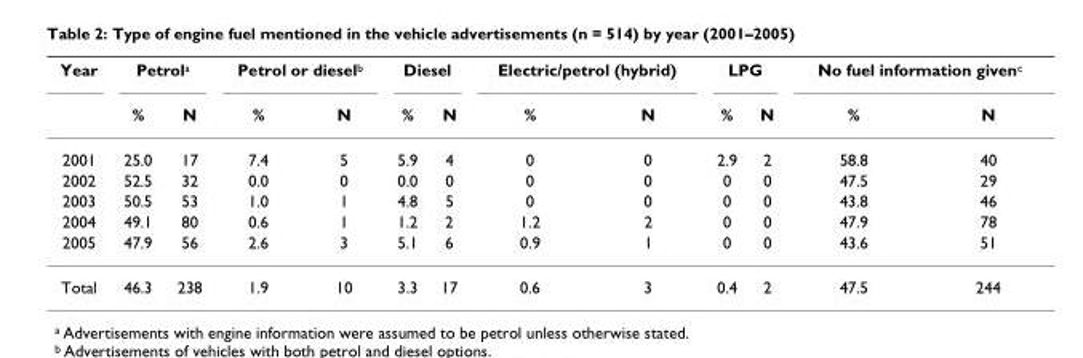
<table><thead><tr><td rowspan="2">Year</td><td colspan="2">Petrol<sup>a</sup></td><td colspan="2">Petrol or diesel<sup>b</sup></td><td colspan="2">Diesel</td><td colspan="2">Electric/petrol (hybrid)</td><td colspan="2">LPG</td><td colspan="2">No fuel information given<sup>c</sup></td></tr><tr><td>%</td><td>N</td><td>%</td><td>N</td><td>%</td><td>N</td><td>%</td><td>N</td><td>%</td><td>N</td><td>%</td><td>N</td></tr></thead><tbody><tr><td>2001</td><td>25.0</td><td>17</td><td>7.4</td><td>5</td><td>5.9</td><td>4</td><td>0</td><td>0</td><td>2.9</td><td>2</td><td>58.8</td><td>40</td></tr><tr><td>2002</td><td>52.5</td><td>32</td><td>0.0</td><td>0</td><td>0.0</td><td>0</td><td>0</td><td>0</td><td>0</td><td>0</td><td>47.5</td><td>29</td></tr><tr><td>2003</td><td>50.5</td><td>53</td><td>1.0</td><td>1</td><td>4.8</td><td>5</td><td>0</td><td>0</td><td>0</td><td>0</td><td>43.8</td><td>46</td></tr><tr><td>2004</td><td>49.1</td><td>80</td><td>0.6</td><td>1</td><td>1.2</td><td>2</td><td>1.2</td><td>2</td><td>0</td><td>0</td><td>47.9</td><td>78</td></tr><tr><td>2005</td><td>47.9</td><td>56</td><td>2.6</td><td>3</td><td>5.1</td><td>6</td><td>0.9</td><td>1</td><td>0</td><td>0</td><td>43.6</td><td>51</td></tr><tr><td>Total</td><td>46.3</td><td>238</td><td>1.9</td><td>10</td><td>3.3</td><td>17</td><td>0.6</td><td>3</td><td>0.4</td><td>2</td><td>47.5</td><td>244</td></tr></tbody></table>